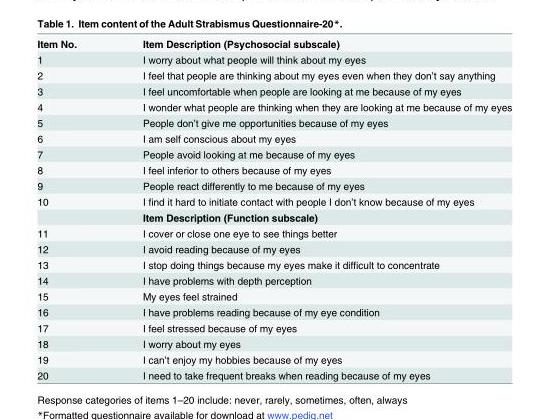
<table><tbody><tr><td>Item No.</td><td>Item Description (Psychosocial subscale)</td></tr><tr><td>1</td><td>I worry about what people will think about my eyes</td></tr><tr><td>2</td><td>I feel that people are thinking about my eyes even when they don’t say anything</td></tr><tr><td>3</td><td>I feel uncomfortable when people are looking at me because of my eyes</td></tr><tr><td>4</td><td>I wonder what people are thinking when they are looking at me because of my eyes</td></tr><tr><td>5</td><td>People don’t give me opportunities because of my eyes</td></tr><tr><td>6</td><td>I am self conscious about my eyes</td></tr><tr><td>7</td><td>People avoid looking at me because of my eyes</td></tr><tr><td>8</td><td>I feel inferior to others because of my eyes</td></tr><tr><td>9</td><td>People react differently to me because of my eyes</td></tr><tr><td rowspan="2">10</td><td>I find it hard to initiate contact with people I don’t know because of my eyes</td></tr><tr><td>Item Description (Function subscale)</td></tr><tr><td>11</td><td>I cover or close one eye to see things better</td></tr><tr><td>12</td><td>I avoid reading because of my eyes</td></tr><tr><td>13</td><td>I stop doing things because my eyes make it difficult to concentrate</td></tr><tr><td>14</td><td>I have problems with depth perception</td></tr><tr><td>15</td><td>My eyes feel strained</td></tr><tr><td>16</td><td>I have problems reading because of my eye condition</td></tr><tr><td>17</td><td>I feel stressed because of my eyes</td></tr><tr><td>18</td><td>I worry about my eyes</td></tr><tr><td>19</td><td>I can’t enjoy my hobbies because of my eyes</td></tr><tr><td>20</td><td>I need to take frequent breaks when reading because of my eyes</td></tr></tbody></table>